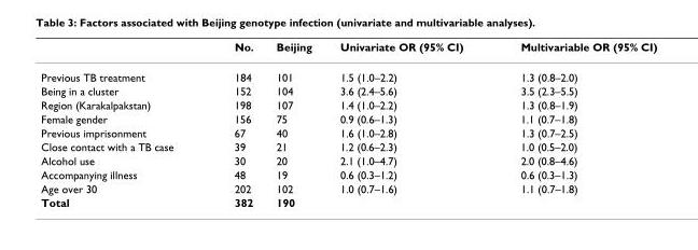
<table><thead><tr><td></td><td>No.</td><td>Beijing</td><td>Univariate OR (95% CI)</td><td>Multivariable OR (95% CI)</td></tr></thead><tbody><tr><td>Previous TB treatment</td><td>184</td><td>101</td><td>1.5 (1.0–2.2)</td><td>1.3 (0.8–2.0)</td></tr><tr><td>Being in a cluster</td><td>152</td><td>104</td><td>3.6 (2.4–5.6)</td><td>3.5 (2.3–5.5)</td></tr><tr><td>Region (Karakalpakstan)</td><td>198</td><td>107</td><td>1.4 (1.0–2.2)</td><td>1.3 (0.8–1.9)</td></tr><tr><td>Female gender</td><td>156</td><td>75</td><td>0.9 (0.6–1.3)</td><td>1.1 (0.7–1.8)</td></tr><tr><td>Previous imprisonment</td><td>67</td><td>40</td><td>1.6 (1.0–2.8)</td><td>1.3 (0.7–2.5)</td></tr><tr><td>Close contact with a TB case</td><td>39</td><td>21</td><td>1.2 (0.6–2.3)</td><td>1.0 (0.5–2.0)</td></tr><tr><td>Alcohol use</td><td>30</td><td>20</td><td>2.1 (1.0–4.7)</td><td>2.0 (0.8–4.6)</td></tr><tr><td>Accompanying illness</td><td>48</td><td>19</td><td>0.6 (0.3–1.2)</td><td>0.6 (0.3–1.3)</td></tr><tr><td>Age over 30</td><td>202</td><td>102</td><td>1.0 (0.7–1.6)</td><td>1.1 (0.7–1.8)</td></tr><tr><td>Total</td><td>382</td><td>190</td><td></td><td></td></tr></tbody></table>